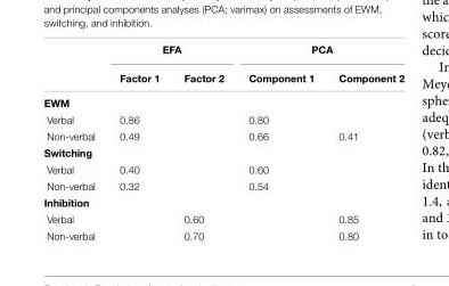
<table><thead><tr><td rowspan="2"></td><td colspan="2">EFA</td><td colspan="2">PCA</td></tr><tr><td>Factor 1</td><td>Factor 2</td><td>Component 1</td><td>Component 2</td></tr></thead><tbody><tr><td colspan="5">EWM</td></tr><tr><td>Verbal</td><td>0.86</td><td></td><td>0.80</td><td></td></tr><tr><td>Non-verbal</td><td>0.49</td><td></td><td>0.66</td><td>0.41</td></tr><tr><td colspan="5">Switching</td></tr><tr><td>Verbal</td><td>0.40</td><td></td><td>0.60</td><td></td></tr><tr><td>Non-verbal</td><td>0.32</td><td></td><td>0.54</td><td></td></tr><tr><td colspan="5">Inhibition</td></tr><tr><td>Verbal</td><td></td><td>0.60</td><td></td><td>0.85</td></tr><tr><td>Non-verbal</td><td></td><td>0.70</td><td></td><td>0.80</td></tr></tbody></table>